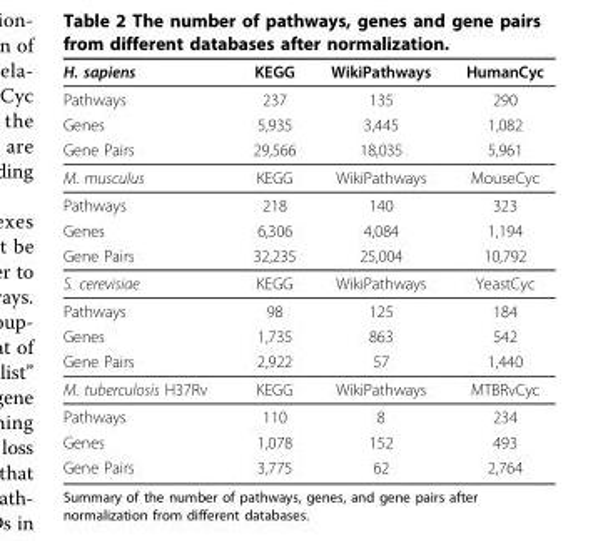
<table><thead><tr><td>H. sapiens</td><td>KEGG</td><td>WikiPathways</td><td>HumanCyc</td></tr></thead><tbody><tr><td>Pathways</td><td>237</td><td>135</td><td>290</td></tr><tr><td>Genes</td><td>5,935</td><td>3,445</td><td>1,082</td></tr><tr><td>Gene Pairs</td><td>29,566</td><td>18,035</td><td>5,961</td></tr><tr><td>M. musculus</td><td>KEGG</td><td>WikiPathways</td><td>MouseCyc</td></tr><tr><td>Pathways</td><td>218</td><td>140</td><td>323</td></tr><tr><td>Genes</td><td>6,306</td><td>4,084</td><td>1,194</td></tr><tr><td>Gene Pairs</td><td>32,235</td><td>25,004</td><td>10,792</td></tr><tr><td>S. cerevisiae</td><td>KEGG</td><td>WikiPathways</td><td>YeastCyc</td></tr><tr><td>Pathways</td><td>98</td><td>125</td><td>184</td></tr><tr><td>Genes</td><td>1,735</td><td>863</td><td>542</td></tr><tr><td>Gene Pairs</td><td>2,922</td><td>57</td><td>1,440</td></tr><tr><td>M. tuberculosis H37Rv</td><td>KEGG</td><td>WikiPathways</td><td>MTBRvCyc</td></tr><tr><td>Pathways</td><td>110</td><td>8</td><td>234</td></tr><tr><td>Genes</td><td>1,078</td><td>152</td><td>493</td></tr><tr><td>Gene Pairs</td><td>3,775</td><td>62</td><td>2,764</td></tr></tbody></table>